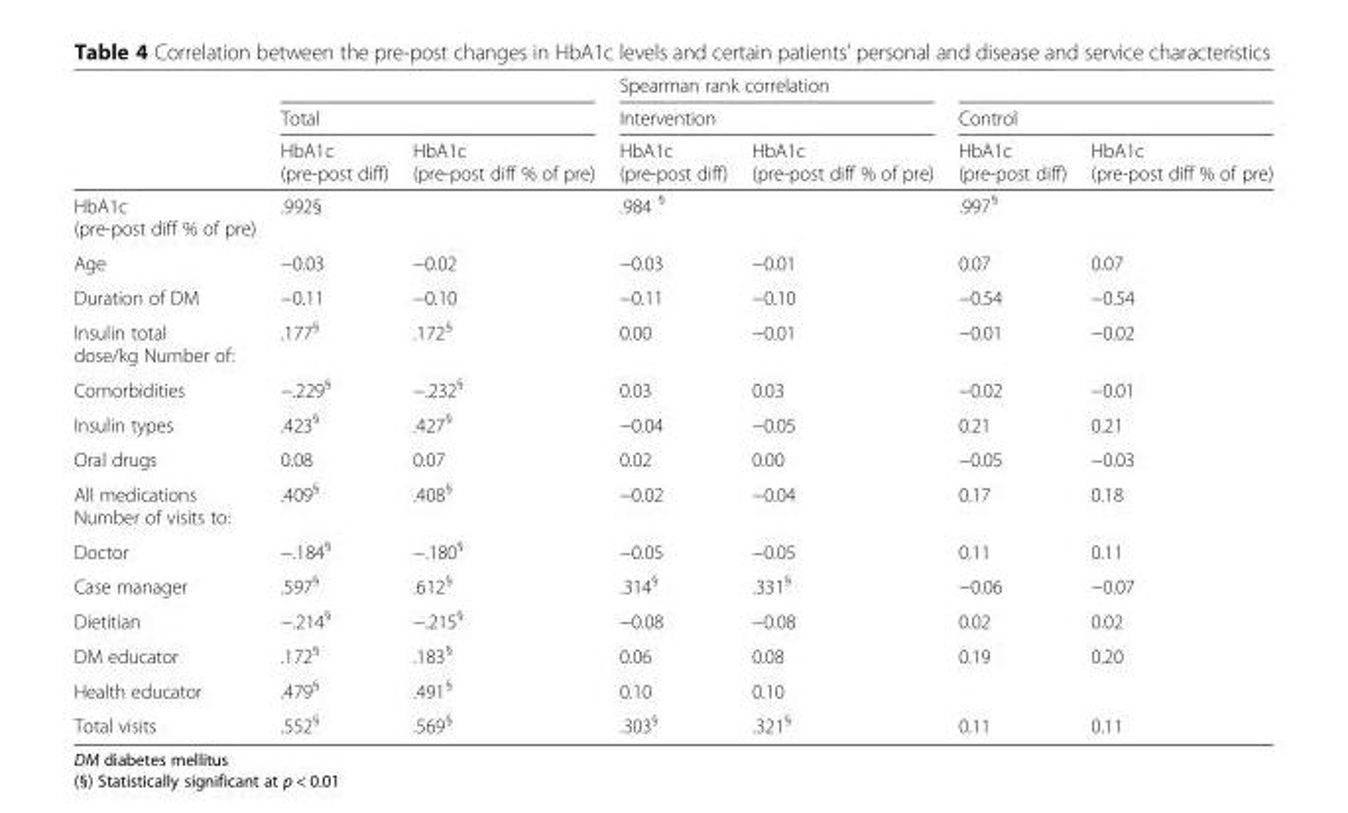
<table><thead><tr><td rowspan="3"></td><td></td><td></td><td rowspan="2" colspan="2">Spearman rank correlation Intervention</td><td></td><td></td></tr><tr><td colspan="2">Total</td><td colspan="2">Control</td></tr><tr><td>HbA1c (pre-post diff)</td><td>HbA1c (pre-post diff % of pre)</td><td>HbA1c (pre-post diff)</td><td>HbA1c (pre-post diff % of pre)</td><td>HbA1c (pre-post diff)</td><td>HbA1c (pre-post diff % of pre)</td></tr></thead><tbody><tr><td>HbA1c (pre-post diff % of pre)</td><td>.992§</td><td></td><td>.984 <sup>§</sup></td><td></td><td>.997<sup>§</sup></td><td></td></tr><tr><td>Age</td><td>−0.03</td><td>−0.02</td><td>−0.03</td><td>−0.01</td><td>0.07</td><td>0.07</td></tr><tr><td>Duration of DM</td><td>−0.11</td><td>−0.10</td><td>−0.11</td><td>−0.10</td><td>−0.54</td><td>−0.54</td></tr><tr><td>Insulin total dose/kg Number of:</td><td>.177<sup>§</sup></td><td>.172<sup>§</sup></td><td>0.00</td><td>−0.01</td><td>−0.01</td><td>−0.02</td></tr><tr><td>Comorbidities</td><td>−.229<sup>§</sup></td><td>−.232<sup>§</sup></td><td>0.03</td><td>0.03</td><td>−0.02</td><td>−0.01</td></tr><tr><td>Insulin types</td><td>.423<sup>§</sup></td><td>.427<sup>§</sup></td><td>−0.04</td><td>−0.05</td><td>0.21</td><td>0.21</td></tr><tr><td>Oral drugs</td><td>0.08</td><td>0.07</td><td>0.02</td><td>0.00</td><td>−0.05</td><td>−0.03</td></tr><tr><td>All medications Number of visits to:</td><td>.409<sup>§</sup></td><td>.408<sup>§</sup></td><td>−0.02</td><td>−0.04</td><td>0.17</td><td>0.18</td></tr><tr><td>Doctor</td><td>−.184<sup>§</sup></td><td>−.180<sup>§</sup></td><td>−0.05</td><td>−0.05</td><td>0.11</td><td>0.11</td></tr><tr><td>Case manager</td><td>.597<sup>§</sup></td><td>.612<sup>§</sup></td><td>.314<sup>§</sup></td><td>.331<sup>§</sup></td><td>−0.06</td><td>−0.07</td></tr><tr><td>Dietitian</td><td>−.214<sup>§</sup></td><td>−.215<sup>§</sup></td><td>−0.08</td><td>−0.08</td><td>0.02</td><td>0.02</td></tr><tr><td>DM educator</td><td>.172<sup>§</sup></td><td>.183<sup>§</sup></td><td>0.06</td><td>0.08</td><td>0.19</td><td>0.20</td></tr><tr><td>Health educator</td><td>.479<sup>§</sup></td><td>.491<sup>§</sup></td><td>0.10</td><td>0.10</td><td></td><td></td></tr><tr><td>Total visits</td><td>.552<sup>§</sup></td><td>.569<sup>§</sup></td><td>.303<sup>§</sup></td><td>.321<sup>§</sup></td><td>0.11</td><td>0.11</td></tr></tbody></table>